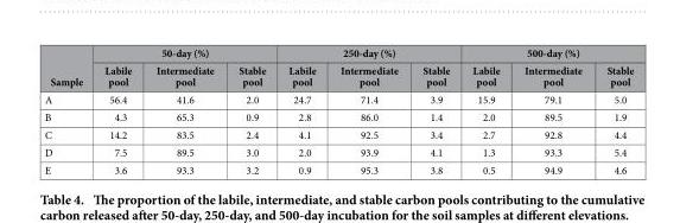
<table><thead><tr><td rowspan="2">Sample</td><td colspan="3">50-day (%)</td><td colspan="3">250-day (%)</td><td colspan="3">500-day (%)</td></tr><tr><td>Labile pool</td><td>Intermediate pool</td><td>Stable pool</td><td>Labile pool</td><td>Intermediate pool</td><td>Stable pool</td><td>Labile pool</td><td>Intermediate pool</td><td>Stable pool</td></tr></thead><tbody><tr><td>A</td><td>56.4</td><td>41.6</td><td>2.0</td><td>24.7</td><td>71.4</td><td>3.9</td><td>15.9</td><td>79.1</td><td>5.0</td></tr><tr><td>B</td><td>4.3</td><td>65.3</td><td>0.9</td><td>2.8</td><td>86.0</td><td>1.4</td><td>2.0</td><td>89.5</td><td>1.9</td></tr><tr><td>C</td><td>14.2</td><td>83.5</td><td>2.4</td><td>4.1</td><td>92.5</td><td>3.4</td><td>2.7</td><td>92.8</td><td>4.4</td></tr><tr><td>D</td><td>7.5</td><td>89.5</td><td>3.0</td><td>2.0</td><td>93.9</td><td>4.1</td><td>1.3</td><td>93.3</td><td>5.4</td></tr><tr><td>E</td><td>3.6</td><td>93.3</td><td>3.2</td><td>0.9</td><td>95.3</td><td>3.8</td><td>0.5</td><td>94.9</td><td>4.6</td></tr></tbody></table>